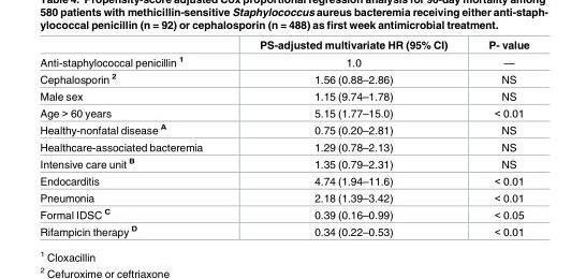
<table><thead><tr><td></td><td>PS-adjusted multivariate HR (95% CI)</td><td>P- value</td></tr></thead><tbody><tr><td>Anti-staphylococcal penicillin <sup>1</sup></td><td>1.0</td><td>—</td></tr><tr><td>Cephalosporin <sup>2</sup></td><td>1.56 (0.88–2.86)</td><td>NS</td></tr><tr><td>Male sex</td><td>1.15 (9.74–1.78)</td><td>NS</td></tr><tr><td>Age &gt; 60 years</td><td>5.15 (1.77–15.0)</td><td>&lt; 0.01</td></tr><tr><td>Healthy-nonfatal disease <sup>A</sup></td><td>0.75 (0.20–2.81)</td><td>NS</td></tr><tr><td>Healthcare-associated bacteremia</td><td>1.29 (0.78–2.13)</td><td>NS</td></tr><tr><td>Intensive care unit <sup>B</sup></td><td>1.35 (0.79–2.31)</td><td>NS</td></tr><tr><td>Endocarditis</td><td>4.74 (1.94–11.6)</td><td>&lt; 0.01</td></tr><tr><td>Pneumonia</td><td>2.18 (1.39–3.42)</td><td>&lt; 0.01</td></tr><tr><td>Formal IDSC <sup>C</sup></td><td>0.39 (0.16–0.99)</td><td>&lt; 0.05</td></tr><tr><td>Rifampicin therapy <sup>D</sup></td><td>0.34 (0.22–0.53)</td><td>&lt; 0.01</td></tr></tbody></table>